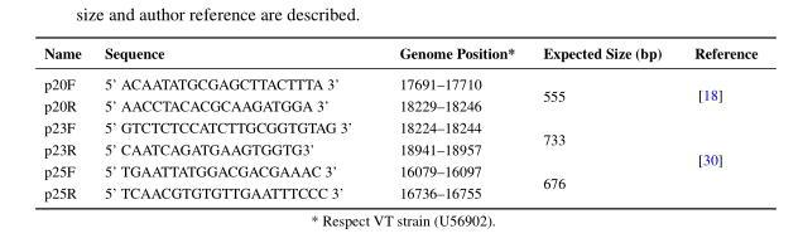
<table><thead><tr><td>Name</td><td>Sequence</td><td>Genome Position*</td><td>Expected Size (bp)</td><td>Reference</td></tr></thead><tbody><tr><td>p20F</td><td>5’ ACAATATGCGAGCTTACTTTA 3’</td><td>17691–17710</td><td rowspan="2">555</td><td rowspan="2">[18]</td></tr><tr><td>p20R</td><td>5’ AACCTACACGCAAGATGGA 3’</td><td>18229–18246</td></tr><tr><td>p23F</td><td>5’ GTCTCTCCATCTTGCGGTGTAG 3’</td><td>18224–18244</td><td rowspan="2">733</td><td rowspan="4">[30]</td></tr><tr><td>p23R</td><td>5’ CAATCAGATGAAGTGGTG3’</td><td>18941–18957</td></tr><tr><td>p25F</td><td>5’ TGAATTATGGACGACGAAAC 3’</td><td>16079–16097</td><td rowspan="2">676</td></tr><tr><td>p25R</td><td>5’ TCAACGTGTGTTGAATTTCCC 3’</td><td>16736–16755</td></tr></tbody></table>